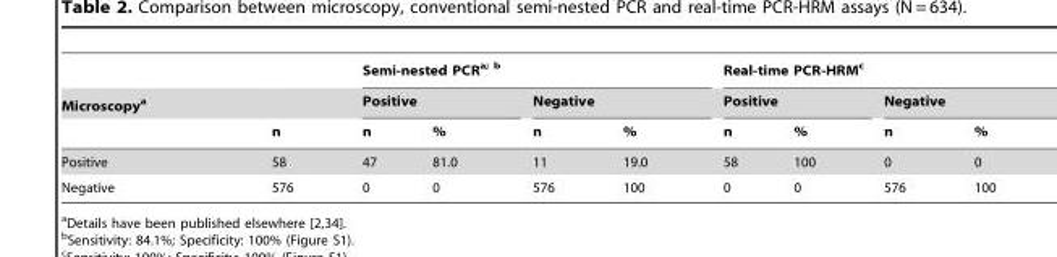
<table><thead><tr><td rowspan="3">Microscopy<sup>a</sup></td><td rowspan="3">n</td><td colspan="4">Semi-nested PCR<sup>a;</sup> b</td><td colspan="4">Real-time PCR-HRM<sup>c</sup></td></tr><tr><td colspan="2">Positive</td><td colspan="2">Negative</td><td colspan="2">Positive</td><td colspan="2">Negative</td></tr><tr><td>n</td><td>%</td><td>n</td><td>%</td><td>n</td><td>%</td><td>n</td><td>%</td></tr></thead><tbody><tr><td>Positive</td><td>58</td><td>47</td><td>81.0</td><td>11</td><td>19.0</td><td>58</td><td>100</td><td>0</td><td>0</td></tr><tr><td>Negative</td><td>576</td><td>0</td><td>0</td><td>576</td><td>100</td><td>0</td><td>0</td><td>576</td><td>100</td></tr></tbody></table>